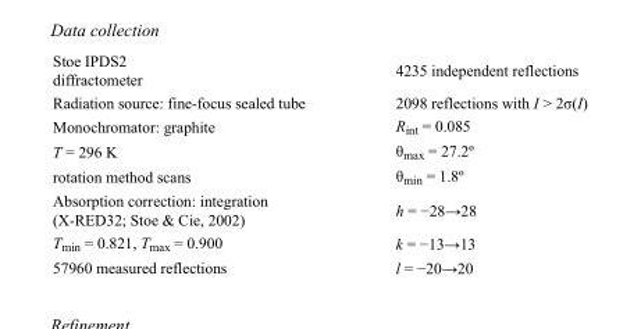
<table><tbody><tr><td>Stoe IPDS2 diffractometer</td><td>4235 independent reflections</td></tr><tr><td>Radiation source: fine-focus sealed tube</td><td>2098 reflections with I &gt; 2σ(I)</td></tr><tr><td>Monochromator: graphite</td><td>R<sub>int</sub> = 0.085</td></tr><tr><td>T = 296 K</td><td>θ<sub>max</sub> = 27.2º</td></tr><tr><td>rotation method scans</td><td>θ<sub>min</sub> = 1.8º</td></tr><tr><td>Absorption correction: integration (X-RED32; Stoe &amp; Cie, 2002)</td><td>h = −28→28</td></tr><tr><td>T<sub>min</sub> = 0.821, T<sub>max</sub> = 0.900</td><td>k = −13→13</td></tr><tr><td>57960 measured reflections</td><td>l = −20→20</td></tr></tbody></table>